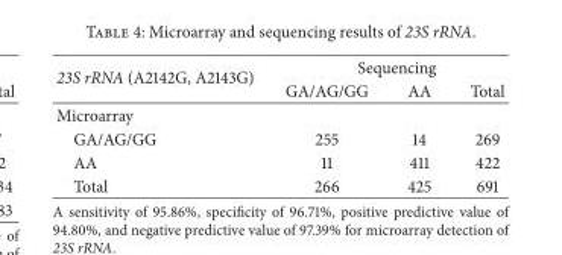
<table><thead><tr><td rowspan="2">23S rRNA (A2142G, A2143G)</td><td colspan="3">Sequencing</td></tr><tr><td>GA/AG/GG</td><td>AA</td><td>Total</td></tr></thead><tbody><tr><td colspan="4">Microarray</td></tr><tr><td>GA/AG/GG</td><td>255</td><td>14</td><td>269</td></tr><tr><td>AA</td><td>11</td><td>411</td><td>422</td></tr><tr><td>Total</td><td>266</td><td>425</td><td>691</td></tr></tbody></table>